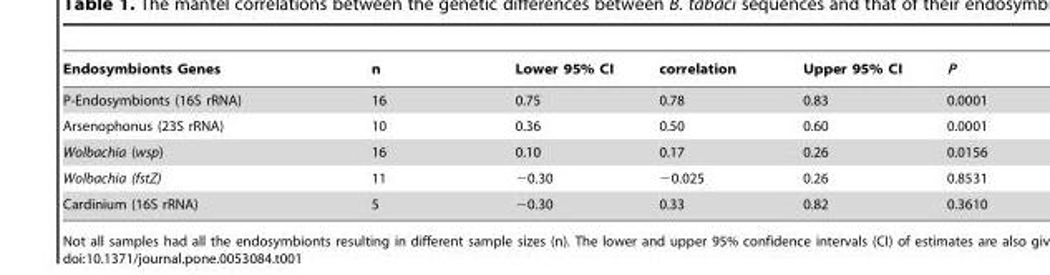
<table><thead><tr><td>Endosymbionts Genes</td><td>n</td><td>Lower 95% CI</td><td>correlation</td><td>Upper 95% CI</td><td>P</td></tr></thead><tbody><tr><td>P-Endosymbionts (16S rRNA)</td><td>16</td><td>0.75</td><td>0.78</td><td>0.83</td><td>0.0001</td></tr><tr><td>Arsenophonus (23S rRNA)</td><td>10</td><td>0.36</td><td>0.50</td><td>0.60</td><td>0.0001</td></tr><tr><td>Wolbachia (wsp)</td><td>16</td><td>0.10</td><td>0.17</td><td>0.26</td><td>0.0156</td></tr><tr><td>Wolbachia (fstZ)</td><td>11</td><td>−0.30</td><td>−0.025</td><td>0.26</td><td>0.8531</td></tr><tr><td>Cardinium (16S rRNA)</td><td>5</td><td>−0.30</td><td>0.33</td><td>0.82</td><td>0.3610</td></tr></tbody></table>